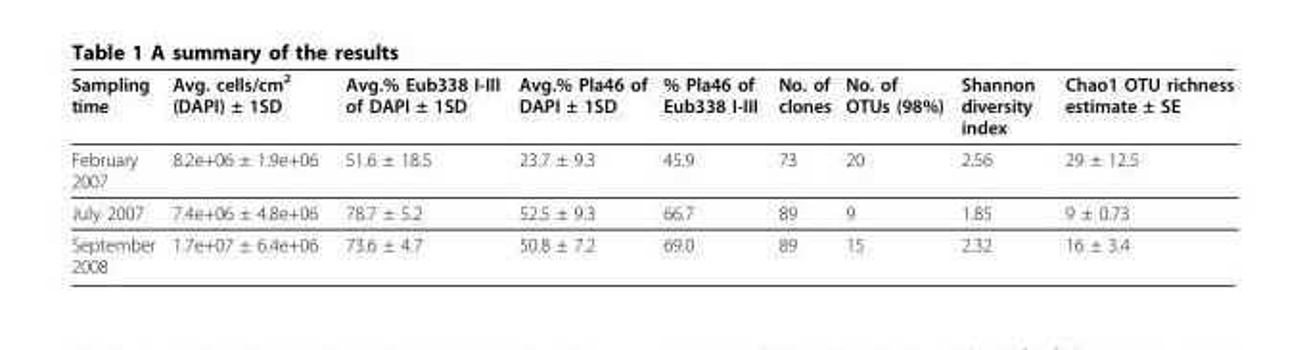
<table><thead><tr><td>Sampling time</td><td>Avg. cells/cm<sup>2</sup> (DAPI) ± 1SD</td><td>Avg.% Eub338 I-III of DAPI ± 1SD</td><td>Avg.% Pla46 of DAPI ± 1SD</td><td>% Pla46 of Eub338 I-III</td><td>No. of clones</td><td>No. of OTUs (98%)</td><td>Shannon diversity index</td><td>Chao1 OTU richness estimate ± SE</td></tr></thead><tbody><tr><td>February 2007</td><td>8.2e+06 ± 1.9e+06</td><td>51.6 ± 18.5</td><td>23.7 ± 9.3</td><td>45.9</td><td>73</td><td>20</td><td>2.56</td><td>29 ± 12.5</td></tr><tr><td>July 2007</td><td>7.4e+06 ± 4.8e+06</td><td>78.7 ± 5.2</td><td>52.5 ± 9.3</td><td>66.7</td><td>89</td><td>9</td><td>1.85</td><td>9 ± 0.73</td></tr><tr><td>September 2008</td><td>1.7e+07 ± 6.4e+06</td><td>73.6 ± 4.7</td><td>50.8 ± 7.2</td><td>69.0</td><td>89</td><td>15</td><td>2.32</td><td>16 ± 3.4</td></tr></tbody></table>